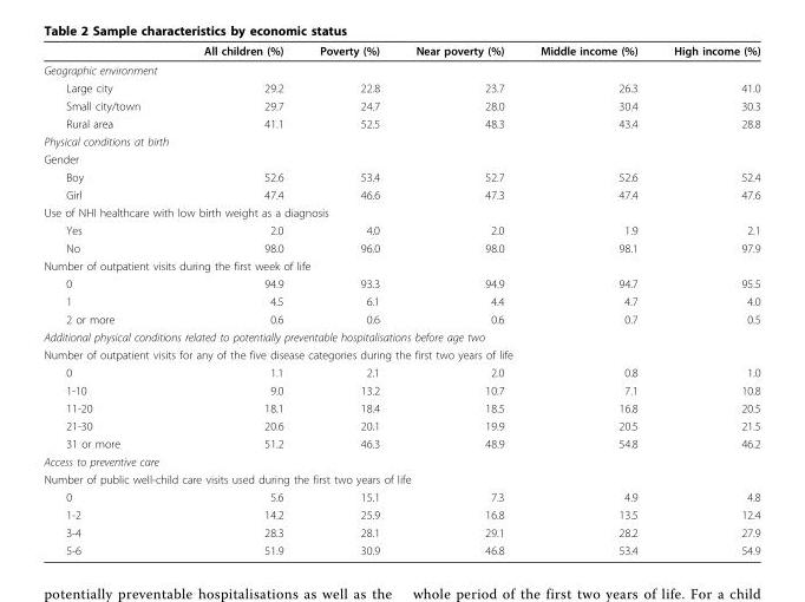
<table><thead><tr><td></td><td>All children (%)</td><td>Poverty (%)</td><td>Near poverty (%)</td><td>Middle income (%)</td><td>High income (%)</td></tr></thead><tbody><tr><td colspan="6">Geographic environment</td></tr><tr><td>Large city</td><td>29.2</td><td>22.8</td><td>23.7</td><td>26.3</td><td>41.0</td></tr><tr><td>Small city/town</td><td>29.7</td><td>24.7</td><td>28.0</td><td>30.4</td><td>30.3</td></tr><tr><td>Rural area</td><td>41.1</td><td>52.5</td><td>48.3</td><td>43.4</td><td>28.8</td></tr><tr><td colspan="6">Physical conditions at birth</td></tr><tr><td colspan="6">Gender</td></tr><tr><td>Boy</td><td>52.6</td><td>53.4</td><td>52.7</td><td>52.6</td><td>52.4</td></tr><tr><td>Girl</td><td>47.4</td><td>46.6</td><td>47.3</td><td>47.4</td><td>47.6</td></tr><tr><td colspan="6">Use of NHI healthcare with low birth weight as a diagnosis</td></tr><tr><td>Yes</td><td>2.0</td><td>4.0</td><td>2.0</td><td>1.9</td><td>2.1</td></tr><tr><td>No</td><td>98.0</td><td>96.0</td><td>98.0</td><td>98.1</td><td>97.9</td></tr><tr><td colspan="6">Number of outpatient visits during the first week of life</td></tr><tr><td>0</td><td>94.9</td><td>93.3</td><td>94.9</td><td>94.7</td><td>95.5</td></tr><tr><td>1</td><td>4.5</td><td>6.1</td><td>4.4</td><td>4.7</td><td>4.0</td></tr><tr><td>2 or more</td><td>0.6</td><td>0.6</td><td>0.6</td><td>0.7</td><td>0.5</td></tr><tr><td colspan="6">Additional physical conditions related to potentially preventable hospitalisations before age two</td></tr><tr><td colspan="6">Number of outpatient visits for any of the five disease categories during the first two years of life</td></tr><tr><td>0</td><td>1.1</td><td>2.1</td><td>2.0</td><td>0.8</td><td>1.0</td></tr><tr><td>1-10</td><td>9.0</td><td>13.2</td><td>10.7</td><td>7.1</td><td>10.8</td></tr><tr><td>11-20</td><td>18.1</td><td>18.4</td><td>18.5</td><td>16.8</td><td>20.5</td></tr><tr><td>21-30</td><td>20.6</td><td>20.1</td><td>19.9</td><td>20.5</td><td>21.5</td></tr><tr><td>31 or more</td><td>51.2</td><td>46.3</td><td>48.9</td><td>54.8</td><td>46.2</td></tr><tr><td colspan="6">Access to preventive care</td></tr><tr><td colspan="6">Number of public well-child care visits used during the first two years of life</td></tr><tr><td>0</td><td>5.6</td><td>15.1</td><td>7.3</td><td>4.9</td><td>4.8</td></tr><tr><td>1-2</td><td>14.2</td><td>25.9</td><td>16.8</td><td>13.5</td><td>12.4</td></tr><tr><td>3-4</td><td>28.3</td><td>28.1</td><td>29.1</td><td>28.2</td><td>27.9</td></tr><tr><td>5-6</td><td>51.9</td><td>30.9</td><td>46.8</td><td>53.4</td><td>54.9</td></tr></tbody></table>